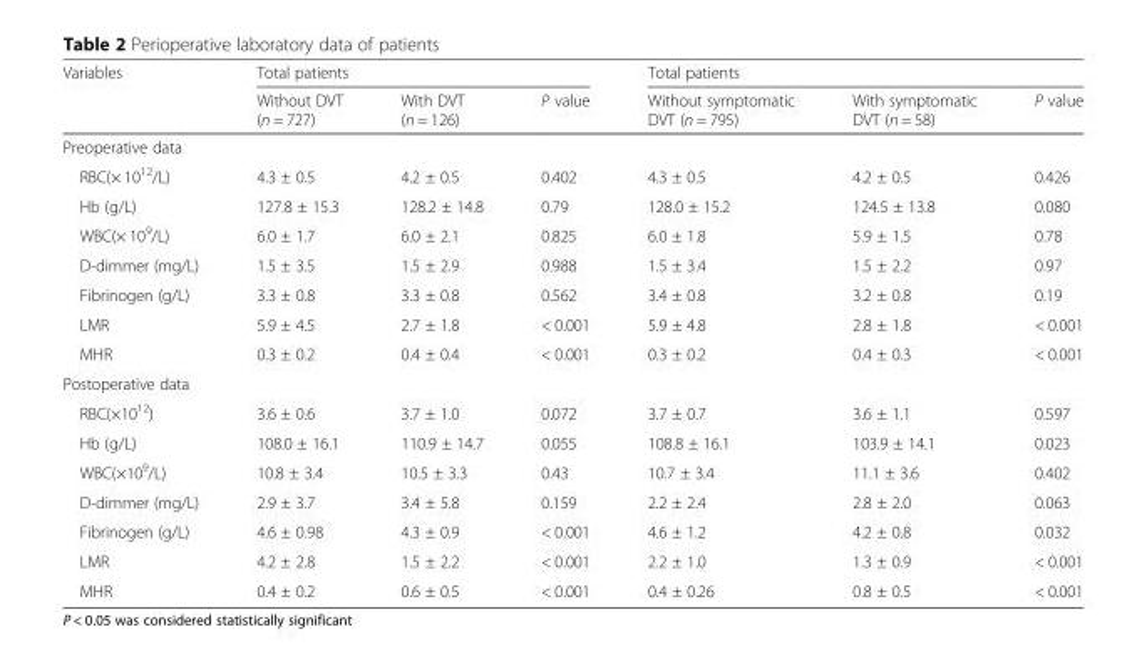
<table><thead><tr><td rowspan="2">Variables</td><td colspan="3">Total patients</td><td colspan="3">Total patients</td></tr><tr><td>Without DVT (n = 727)</td><td>With DVT (n = 126)</td><td>P value</td><td>Without symptomatic DVT (n = 795)</td><td>With symptomatic DVT (n = 58)</td><td>P value</td></tr></thead><tbody><tr><td colspan="7">Preoperative data</td></tr><tr><td>RBC(× 10<sup>12</sup>/L)</td><td>4.3 ± 0.5</td><td>4.2 ± 0.5</td><td>0.402</td><td>4.3 ± 0.5</td><td>4.2 ± 0.5</td><td>0.426</td></tr><tr><td>Hb (g/L)</td><td>127.8 ± 15.3</td><td>128.2 ± 14.8</td><td>0.79</td><td>128.0 ± 15.2</td><td>124.5 ± 13.8</td><td>0.080</td></tr><tr><td>WBC(× 10<sup>9</sup>/L)</td><td>6.0 ± 1.7</td><td>6.0 ± 2.1</td><td>0.825</td><td>6.0 ± 1.8</td><td>5.9 ± 1.5</td><td>0.78</td></tr><tr><td>D-dimmer (mg/L)</td><td>1.5 ± 3.5</td><td>1.5 ± 2.9</td><td>0.988</td><td>1.5 ± 3.4</td><td>1.5 ± 2.2</td><td>0.97</td></tr><tr><td>Fibrinogen (g/L)</td><td>3.3 ± 0.8</td><td>3.3 ± 0.8</td><td>0.562</td><td>3.4 ± 0.8</td><td>3.2 ± 0.8</td><td>0.19</td></tr><tr><td>LMR</td><td>5.9 ± 4.5</td><td>2.7 ± 1.8</td><td>&lt; 0.001</td><td>5.9 ± 4.8</td><td>2.8 ± 1.8</td><td>&lt; 0.001</td></tr><tr><td>MHR</td><td>0.3 ± 0.2</td><td>0.4 ± 0.4</td><td>&lt; 0.001</td><td>0.3 ± 0.2</td><td>0.4 ± 0.3</td><td>&lt; 0.001</td></tr><tr><td colspan="7">Postoperative data</td></tr><tr><td>RBC(×10<sup>12</sup>)</td><td>3.6 ± 0.6</td><td>3.7 ± 1.0</td><td>0.072</td><td>3.7 ± 0.7</td><td>3.6 ± 1.1</td><td>0.597</td></tr><tr><td>Hb (g/L)</td><td>108.0 ± 16.1</td><td>110.9 ± 14.7</td><td>0.055</td><td>108.8 ± 16.1</td><td>103.9 ± 14.1</td><td>0.023</td></tr><tr><td>WBC(×10<sup>9</sup>/L)</td><td>10.8 ± 3.4</td><td>10.5 ± 3.3</td><td>0.43</td><td>10.7 ± 3.4</td><td>11.1 ± 3.6</td><td>0.402</td></tr><tr><td>D-dimmer (mg/L)</td><td>2.9 ± 3.7</td><td>3.4 ± 5.8</td><td>0.159</td><td>2.2 ± 2.4</td><td>2.8 ± 2.0</td><td>0.063</td></tr><tr><td>Fibrinogen (g/L)</td><td>4.6 ± 0.98</td><td>4.3 ± 0.9</td><td>&lt; 0.001</td><td>4.6 ± 1.2</td><td>4.2 ± 0.8</td><td>0.032</td></tr><tr><td>LMR</td><td>4.2 ± 2.8</td><td>1.5 ± 2.2</td><td>&lt; 0.001</td><td>2.2 ± 1.0</td><td>1.3 ± 0.9</td><td>&lt; 0.001</td></tr><tr><td>MHR</td><td>0.4 ± 0.2</td><td>0.6 ± 0.5</td><td>&lt; 0.001</td><td>0.4 ± 0.26</td><td>0.8 ± 0.5</td><td>&lt; 0.001</td></tr></tbody></table>